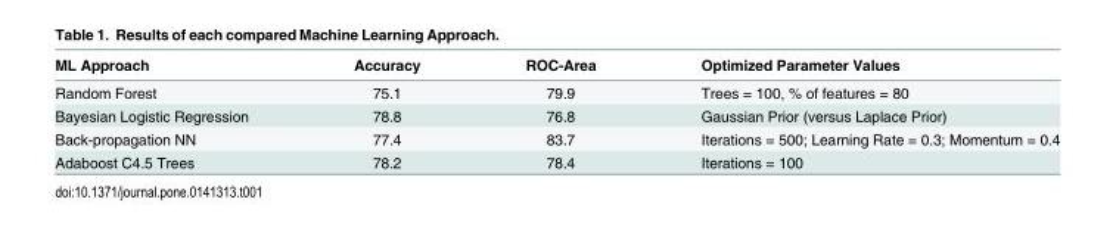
<table><thead><tr><td>ML Approach</td><td>Accuracy</td><td>ROC-Area</td><td>Optimized Parameter Values</td></tr></thead><tbody><tr><td>Random Forest</td><td>75.1</td><td>79.9</td><td>Trees = 100, % of features = 80</td></tr><tr><td>Bayesian Logistic Regression</td><td>78.8</td><td>76.8</td><td>Gaussian Prior (versus Laplace Prior)</td></tr><tr><td>Back-propagation NN</td><td>77.4</td><td>83.7</td><td>Iterations = 500; Learning Rate = 0.3; Momentum = 0.4</td></tr><tr><td>Adaboost C4.5 Trees</td><td>78.2</td><td>78.4</td><td>Iterations = 100</td></tr></tbody></table>